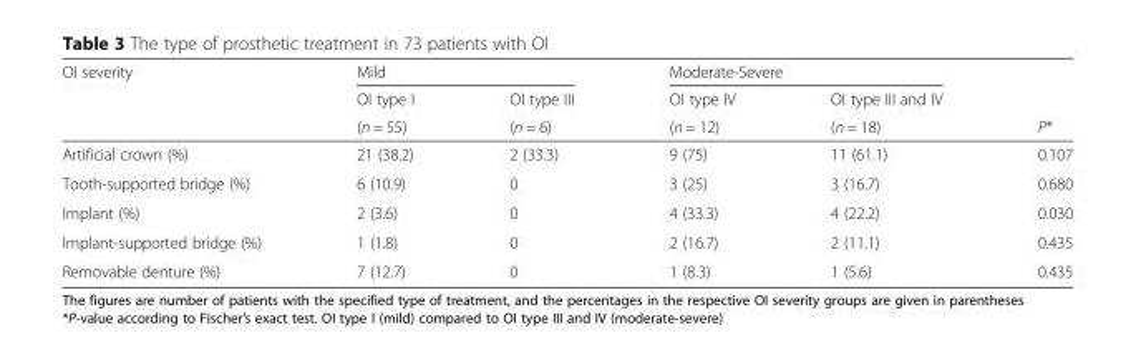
<table><thead><tr><td rowspan="3">OI severity</td><td colspan="2">Mild</td><td colspan="2">Moderate-Severe</td><td rowspan="3">P*</td></tr><tr><td rowspan="2">OI type I (n = 55)</td><td rowspan="2">OI type III (n = 6)</td><td rowspan="2">OI type IV (n = 12)</td><td rowspan="2">OI type III and IV (n = 18)</td></tr><tr></tr></thead><tbody><tr><td>Artificial crown (%)</td><td>21 (38.2)</td><td>2 (33.3)</td><td>9 (75)</td><td>11 (61.1)</td><td>0.107</td></tr><tr><td>Tooth-supported bridge (%)</td><td>6 (10.9)</td><td>0</td><td>3 (25)</td><td>3 (16.7)</td><td>0.680</td></tr><tr><td>Implant (%)</td><td>2 (3.6)</td><td>0</td><td>4 (33.3)</td><td>4 (22.2)</td><td>0.030</td></tr><tr><td>Implant-supported bridge (%)</td><td>1 (1.8)</td><td>0</td><td>2 (16.7)</td><td>2 (11.1)</td><td>0.435</td></tr><tr><td>Removable denture (%)</td><td>7 (12.7)</td><td>0</td><td>1 (8.3)</td><td>1 (5.6)</td><td>0.435</td></tr></tbody></table>